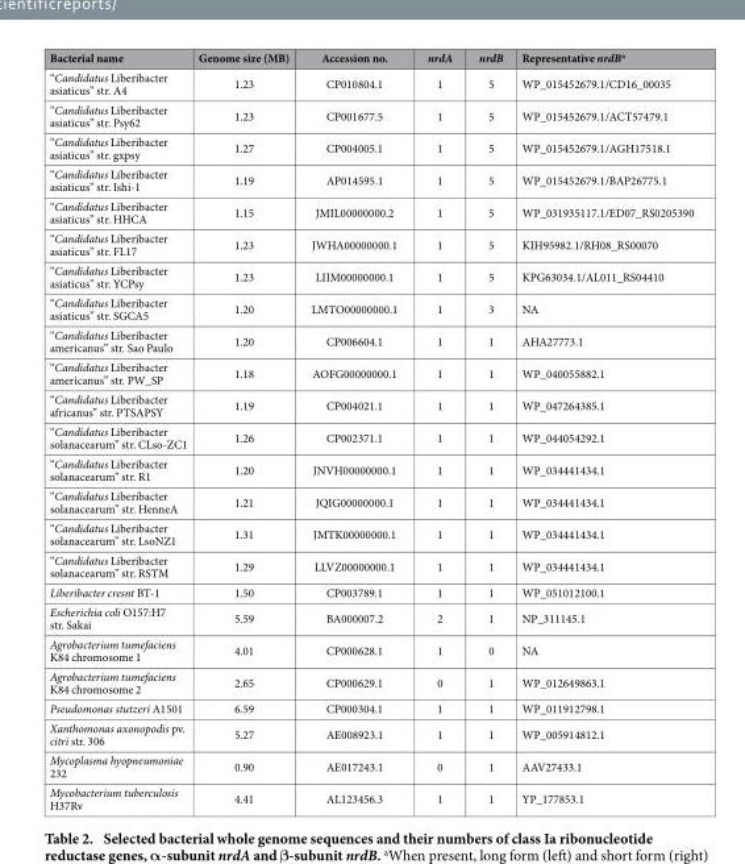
<table><thead><tr><td>Bacterial name</td><td>Genome size (MB)</td><td>Accession no.</td><td>nrdA</td><td>nrdB</td><td>Representative nrdB<sup>a</sup></td></tr></thead><tbody><tr><td>“Candidatus Liberibacter asiaticus” str. A4</td><td>1.23</td><td>CP010804.1</td><td>1</td><td>5</td><td>WP_015452679.1/CD16_00035</td></tr><tr><td>“Candidatus Liberibacter asiaticus” str. Psy62</td><td>1.23</td><td>CP001677.5</td><td>1</td><td>5</td><td>WP_015452679.1/ACT57479.1</td></tr><tr><td>“Candidatus Liberibacter asiaticus” str. gxpsy</td><td>1.27</td><td>CP004005.1</td><td>1</td><td>5</td><td>WP_015452679.1/AGH17518.1</td></tr><tr><td>“Candidatus Liberibacter asiaticus” str. Ishi-1</td><td>1.19</td><td>AP014595.1</td><td>1</td><td>5</td><td>WP_015452679.1/BAP26775.1</td></tr><tr><td>“Candidatus Liberibacter asiaticus” str. HHCA</td><td>1.15</td><td>JMIL00000000.2</td><td>1</td><td>5</td><td>WP_031935117.1/ED07_RS0205390</td></tr><tr><td>“Candidatus Liberibacter asiaticus” str. FL17</td><td>1.23</td><td>JWHA00000000.1</td><td>1</td><td>5</td><td>KIH95982.1/RH08_RS00070</td></tr><tr><td>“Candidatus Liberibacter asiaticus” str. YCPsy</td><td>1.23</td><td>LIIM00000000.1</td><td>1</td><td>5</td><td>KPG63034.1/AL011_RS04410</td></tr><tr><td>“Candidatus Liberibacter asiaticus” str. SGCA5</td><td>1.20</td><td>LMTO00000000.1</td><td>1</td><td>3</td><td>NA</td></tr><tr><td>“Candidatus Liberibacter americanus” str. Sao Paulo</td><td>1.20</td><td>CP006604.1</td><td>1</td><td>1</td><td>AHA27773.1</td></tr><tr><td>“Candidatus Liberibacter americanus” str. PW_SP</td><td>1.18</td><td>AOFG00000000.1</td><td>1</td><td>1</td><td>WP_040055882.1</td></tr><tr><td>“Candidatus Liberibacter africanus” str. PTSAPSY</td><td>1.19</td><td>CP004021.1</td><td>1</td><td>1</td><td>WP_047264385.1</td></tr><tr><td>“Candidatus Liberibacter solanacearum” str. CLso-ZC1</td><td>1.26</td><td>CP002371.1</td><td>1</td><td>1</td><td>WP_044054292.1</td></tr><tr><td>“Candidatus Liberibacter solanacearum” str. R1</td><td>1.20</td><td>JNVH00000000.1</td><td>1</td><td>1</td><td>WP_034441434.1</td></tr><tr><td>“Candidatus Liberibacter solanacearum” str. HenneA</td><td>1.21</td><td>JQIG00000000.1</td><td>1</td><td>1</td><td>WP_034441434.1</td></tr><tr><td>“Candidatus Liberibacter solanacearum” str. LsoNZ1</td><td>1.31</td><td>JMTK00000000.1</td><td>1</td><td>1</td><td>WP_034441434.1</td></tr><tr><td>“Candidatus Liberibacter solanacearum” str. RSTM</td><td>1.29</td><td>LLVZ00000000.1</td><td>1</td><td>1</td><td>WP_034441434.1</td></tr><tr><td>Liberibacter cresnt BT-1</td><td>1.50</td><td>CP003789.1</td><td>1</td><td>1</td><td>WP_051012100.1</td></tr><tr><td>Escherichia coli O157:H7 str. Sakai</td><td>5.59</td><td>BA000007.2</td><td>2</td><td>1</td><td>NP_311145.1</td></tr><tr><td>Agrobacterium tumefaciens K84 chromosome 1</td><td>4.01</td><td>CP000628.1</td><td>1</td><td>0</td><td>NA</td></tr><tr><td>Agrobacterium tumefaciens K84 chromosome 2</td><td>2.65</td><td>CP000629.1</td><td>0</td><td>1</td><td>WP_012649863.1</td></tr><tr><td>Pseudomonas stutzeri A1501</td><td>6.59</td><td>CP000304.1</td><td>1</td><td>1</td><td>WP_011912798.1</td></tr><tr><td>Xanthomonas axonopodis pv. citri str. 306</td><td>5.27</td><td>AE008923.1</td><td>1</td><td>1</td><td>WP_005914812.1</td></tr><tr><td>Mycoplasma hyopneumoniae 232</td><td>0.90</td><td>AE017243.1</td><td>0</td><td>1</td><td>AAV27433.1</td></tr><tr><td>Mycobacterium tuberculosis H37Rv</td><td>4.41</td><td>AL123456.3</td><td>1</td><td>1</td><td>YP_177853.1</td></tr></tbody></table>